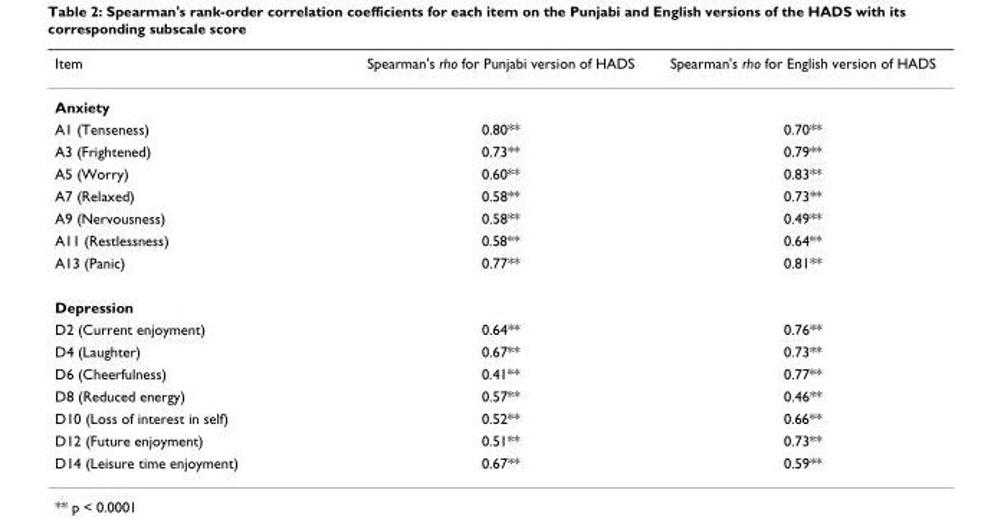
<table><thead><tr><td>Item</td><td>Spearman&#x27;s rho for Punjabi version of HADS</td><td>Spearman&#x27;s rho for English version of HADS</td></tr></thead><tbody><tr><td colspan="3">Anxiety</td></tr><tr><td>A1 (Tenseness)</td><td>0.80**</td><td>0.70**</td></tr><tr><td>A3 (Frightened)</td><td>0.73**</td><td>0.79**</td></tr><tr><td>A5 (Worry)</td><td>0.60**</td><td>0.83**</td></tr><tr><td>A7 (Relaxed)</td><td>0.58**</td><td>0.73**</td></tr><tr><td>A9 (Nervousness)</td><td>0.58**</td><td>0.49**</td></tr><tr><td>A11 (Restlessness)</td><td>0.58**</td><td>0.64**</td></tr><tr><td>A13 (Panic)</td><td>0.77**</td><td>0.81**</td></tr><tr><td colspan="3">Depression</td></tr><tr><td>D2 (Current enjoyment)</td><td>0.64**</td><td>0.76**</td></tr><tr><td>D4 (Laughter)</td><td>0.67**</td><td>0.73**</td></tr><tr><td>D6 (Cheerfulness)</td><td>0.41**</td><td>0.77**</td></tr><tr><td>D8 (Reduced energy)</td><td>0.57**</td><td>0.46**</td></tr><tr><td>D10 (Loss of interest in self)</td><td>0.52**</td><td>0.66**</td></tr><tr><td>D12 (Future enjoyment)</td><td>0.51**</td><td>0.73**</td></tr><tr><td>D14 (Leisure time enjoyment)</td><td>0.67**</td><td>0.59**</td></tr></tbody></table>